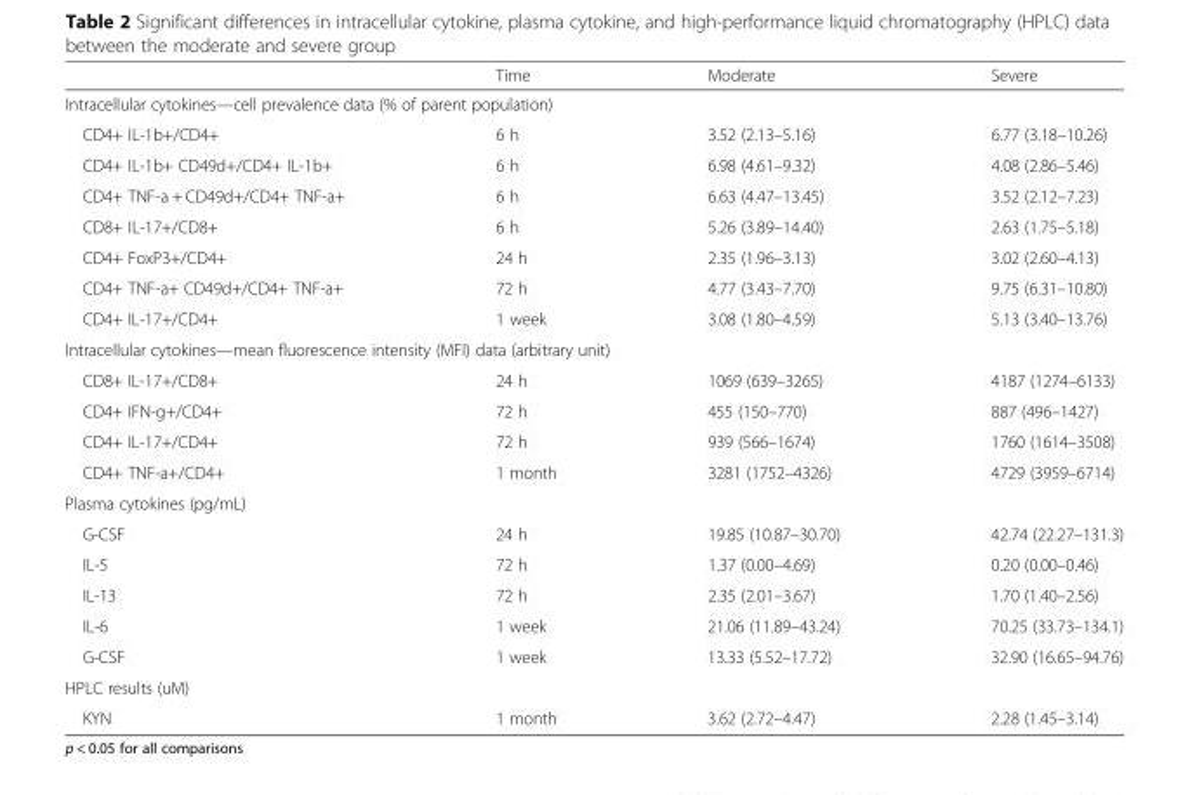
<table><thead><tr><td></td><td>Time</td><td>Moderate</td><td>Severe</td></tr></thead><tbody><tr><td colspan="4">Intracellular cytokines—cell prevalence data (% of parent population)</td></tr><tr><td>CD4+ IL-1b+/CD4+</td><td>6 h</td><td>3.52 (2.13–5.16)</td><td>6.77 (3.18–10.26)</td></tr><tr><td>CD4+ IL-1b+ CD49d+/CD4+ IL-1b+</td><td>6 h</td><td>6.98 (4.61–9.32)</td><td>4.08 (2.86–5.46)</td></tr><tr><td>CD4+ TNF-a + CD49d+/CD4+ TNF-a+</td><td>6 h</td><td>6.63 (4.47–13.45)</td><td>3.52 (2.12–7.23)</td></tr><tr><td>CD8+ IL-17+/CD8+</td><td>6 h</td><td>5.26 (3.89–14.40)</td><td>2.63 (1.75–5.18)</td></tr><tr><td>CD4+ FoxP3+/CD4+</td><td>24 h</td><td>2.35 (1.96–3.13)</td><td>3.02 (2.60–4.13)</td></tr><tr><td>CD4+ TNF-a+ CD49d+/CD4+ TNF-a+</td><td>72 h</td><td>4.77 (3.43–7.70)</td><td>9.75 (6.31–10.80)</td></tr><tr><td>CD4+ IL-17+/CD4+</td><td>1 week</td><td>3.08 (1.80–4.59)</td><td>5.13 (3.40–13.76)</td></tr><tr><td colspan="4">Intracellular cytokines—mean fluorescence intensity (MFI) data (arbitrary unit)</td></tr><tr><td>CD8+ IL-17+/CD8+</td><td>24 h</td><td>1069 (639–3265)</td><td>4187 (1274–6133)</td></tr><tr><td>CD4+ IFN-g+/CD4+</td><td>72 h</td><td>455 (150–770)</td><td>887 (496–1427)</td></tr><tr><td>CD4+ IL-17+/CD4+</td><td>72 h</td><td>939 (566–1674)</td><td>1760 (1614–3508)</td></tr><tr><td>CD4+ TNF-a+/CD4+</td><td>1 month</td><td>3281 (1752–4326)</td><td>4729 (3959–6714)</td></tr><tr><td colspan="4">Plasma cytokines (pg/mL)</td></tr><tr><td>G-CSF</td><td>24 h</td><td>19.85 (10.87–30.70)</td><td>42.74 (22.27–131.3)</td></tr><tr><td>IL-5</td><td>72 h</td><td>1.37 (0.00–4.69)</td><td>0.20 (0.00–0.46)</td></tr><tr><td>IL-13</td><td>72 h</td><td>2.35 (2.01–3.67)</td><td>1.70 (1.40–2.56)</td></tr><tr><td>IL-6</td><td>1 week</td><td>21.06 (11.89–43.24)</td><td>70.25 (33.73–134.1)</td></tr><tr><td>G-CSF</td><td>1 week</td><td>13.33 (5.52–17.72)</td><td>32.90 (16.65–94.76)</td></tr><tr><td colspan="4">HPLC results (uM)</td></tr><tr><td>KYN</td><td>1 month</td><td>3.62 (2.72–4.47)</td><td>2.28 (1.45–3.14)</td></tr></tbody></table>